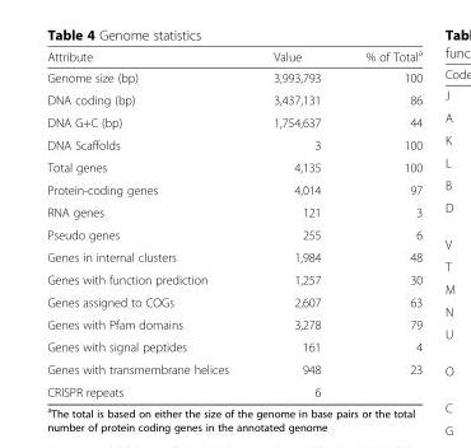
<table><thead><tr><td>Attribute</td><td>Value</td><td>% of Total<sup>a</sup></td></tr></thead><tbody><tr><td>Genome size (bp)</td><td>3,993,793</td><td>100</td></tr><tr><td>DNA coding (bp)</td><td>3,437,131</td><td>86</td></tr><tr><td>DNA G+C (bp)</td><td>1,754,637</td><td>44</td></tr><tr><td>DNA Scaffolds</td><td>3</td><td>100</td></tr><tr><td>Total genes</td><td>4,135</td><td>100</td></tr><tr><td>Protein-coding genes</td><td>4,014</td><td>97</td></tr><tr><td>RNA genes</td><td>121</td><td>3</td></tr><tr><td>Pseudo genes</td><td>255</td><td>6</td></tr><tr><td>Genes in internal clusters</td><td>1,984</td><td>48</td></tr><tr><td>Genes with function prediction</td><td>1,257</td><td>30</td></tr><tr><td>Genes assigned to COGs</td><td>2,607</td><td>63</td></tr><tr><td>Genes with Pfam domains</td><td>3,278</td><td>79</td></tr><tr><td>Genes with signal peptides</td><td>161</td><td>4</td></tr><tr><td>Genes with transmembrane helices</td><td>948</td><td>23</td></tr><tr><td>CRISPR repeats</td><td>6</td><td></td></tr></tbody></table>